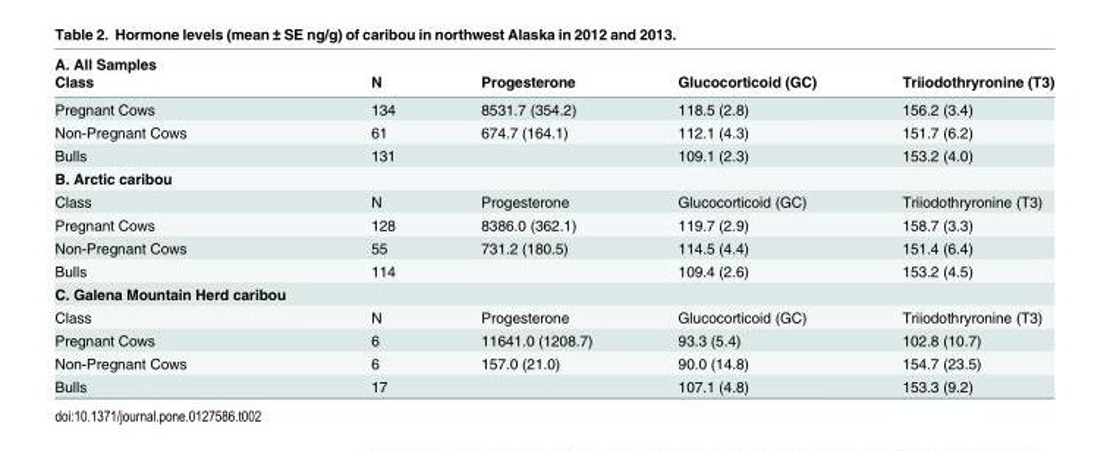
<table><thead><tr><td rowspan="2">A. All Samples Class</td><td rowspan="2">N</td><td rowspan="2">Progesterone</td><td rowspan="2">Glucocorticoid (GC)</td><td rowspan="2">Triiodothryronine (T3)</td></tr><tr></tr></thead><tbody><tr><td>Pregnant Cows</td><td>134</td><td>8531.7 (354.2)</td><td>118.5 (2.8)</td><td>156.2 (3.4)</td></tr><tr><td>Non-Pregnant Cows</td><td>61</td><td>674.7 (164.1)</td><td>112.1 (4.3)</td><td>151.7 (6.2)</td></tr><tr><td>Bulls</td><td>131</td><td></td><td>109.1 (2.3)</td><td>153.2 (4.0)</td></tr><tr><td colspan="5">B. Arctic caribou</td></tr><tr><td>Class</td><td>N</td><td>Progesterone</td><td>Glucocorticoid (GC)</td><td>Triiodothryronine (T3)</td></tr><tr><td>Pregnant Cows</td><td>128</td><td>8386.0 (362.1)</td><td>119.7 (2.9)</td><td>158.7 (3.3)</td></tr><tr><td>Non-Pregnant Cows</td><td>55</td><td>731.2 (180.5)</td><td>114.5 (4.4)</td><td>151.4 (6.4)</td></tr><tr><td>Bulls</td><td>114</td><td></td><td>109.4 (2.6)</td><td>153.2 (4.5)</td></tr><tr><td colspan="5">C. Galena Mountain Herd caribou</td></tr><tr><td>Class</td><td>N</td><td>Progesterone</td><td>Glucocorticoid (GC)</td><td>Triiodothryronine (T3)</td></tr><tr><td>Pregnant Cows</td><td>6</td><td>11641.0 (1208.7)</td><td>93.3 (5.4)</td><td>102.8 (10.7)</td></tr><tr><td>Non-Pregnant Cows</td><td>6</td><td>157.0 (21.0)</td><td>90.0 (14.8)</td><td>154.7 (23.5)</td></tr><tr><td>Bulls</td><td>17</td><td></td><td>107.1 (4.8)</td><td>153.3 (9.2)</td></tr></tbody></table>